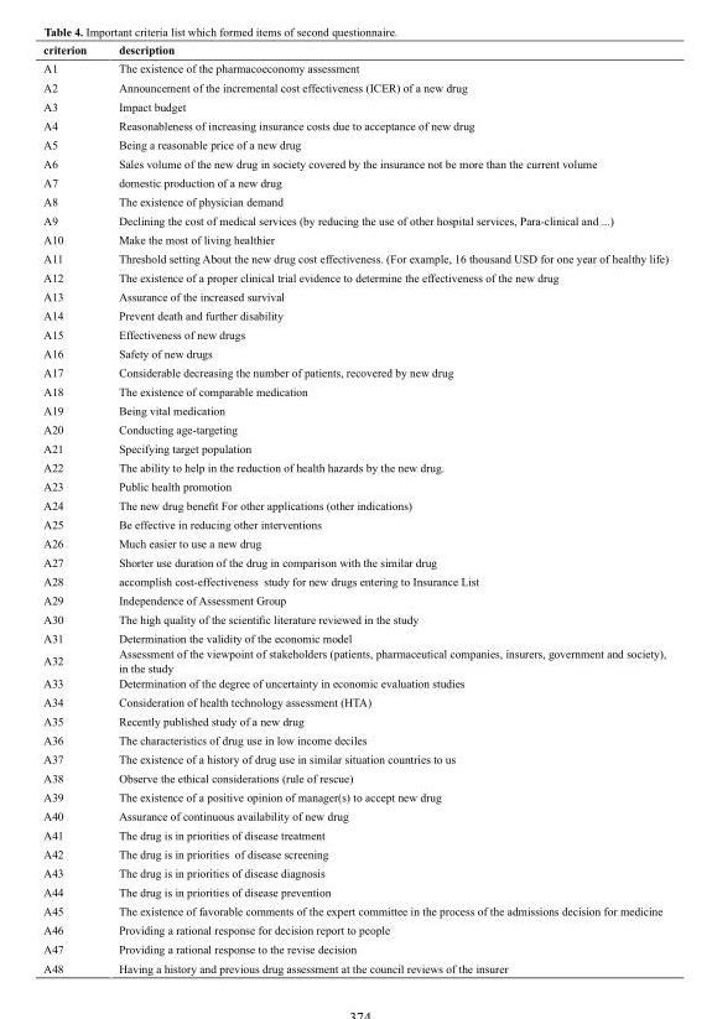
<table><thead><tr><td>criterion</td><td>description</td></tr></thead><tbody><tr><td>A1</td><td>The existence of the pharmacoeconomy assessment</td></tr><tr><td>A2</td><td>Announcement of the incremental cost effectiveness (ICER) of a new drug</td></tr><tr><td>A3</td><td>Impact budget</td></tr><tr><td>A4</td><td>Reasonableness of increasing insurance costs due to acceptance of new drug</td></tr><tr><td>A5</td><td>Being a reasonable price of a new drug</td></tr><tr><td>A6</td><td>Sales volume of the new drug in society covered by the insurance not be more than the current volume</td></tr><tr><td>A7</td><td>domestic production of a new drug</td></tr><tr><td>A8</td><td>The existence of physician demand</td></tr><tr><td>A9</td><td>Declining the cost of medical services (by reducing the use of other hospital services, Para-clinical and ...)</td></tr><tr><td>A10</td><td>Make the most of living healthier</td></tr><tr><td>A11</td><td>Threshold setting About the new drug cost effectiveness. (For example, 16 thousand USD for one year of healthy life)</td></tr><tr><td>A12</td><td>The existence of a proper clinical trial evidence to determine the effectiveness of the new drug</td></tr><tr><td>A13</td><td>Assurance of the increased survival</td></tr><tr><td>A14</td><td>Prevent death and further disability</td></tr><tr><td>A15</td><td>Effectiveness of new drugs</td></tr><tr><td>A16</td><td>Safety of new drugs</td></tr><tr><td>A17</td><td>Considerable decreasing the number of patients, recovered by new drug</td></tr><tr><td>A18</td><td>The existence of comparable medication</td></tr><tr><td>A19</td><td>Being vital medication</td></tr><tr><td>A20</td><td>Conducting age-targeting</td></tr><tr><td>A21</td><td>Specifying target population</td></tr><tr><td>A22</td><td>The ability to help in the reduction of health hazards by the new drug.</td></tr><tr><td>A23</td><td>Public health promotion</td></tr><tr><td>A24</td><td>The new drug benefit For other applications (other indications)</td></tr><tr><td>A25</td><td>Be effective in reducing other interventions</td></tr><tr><td>A26</td><td>Much easier to use a new drug</td></tr><tr><td>A27</td><td>Shorter use duration of the drug in comparison with the similar drug</td></tr><tr><td>A28</td><td>accomplish cost-effectiveness study for new drugs entering to Insurance List</td></tr><tr><td>A29</td><td>Independence of Assessment Group</td></tr><tr><td>A30</td><td>The high quality of the scientific literature reviewed in the study</td></tr><tr><td>A31</td><td>Determination the validity of the economic model</td></tr><tr><td>A32</td><td>Assessment of the viewpoint of stakeholders (patients, pharmaceutical companies, insurers, government and society), in the study</td></tr><tr><td>A33</td><td>Determination of the degree of uncertainty in economic evaluation studies</td></tr><tr><td>A34</td><td>Consideration of health technology assessment (HTA)</td></tr><tr><td>A35</td><td>Recently published study of a new drug</td></tr><tr><td>A36</td><td>The characteristics of drug use in low income deciles</td></tr><tr><td>A37</td><td>The existence of a history of drug use in similar situation countries to us</td></tr><tr><td>A38</td><td>Observe the ethical considerations (rule of rescue)</td></tr><tr><td>A39</td><td>The existence of a positive opinion of manager(s) to accept new drug</td></tr><tr><td>A40</td><td>Assurance of continuous availability of new drug</td></tr><tr><td>A41</td><td>The drug is in priorities of disease treatment</td></tr><tr><td>A42</td><td>The drug is in priorities of disease screening</td></tr><tr><td>A43</td><td>The drug is in priorities of disease diagnosis</td></tr><tr><td>A44</td><td>The drug is in priorities of disease prevention</td></tr><tr><td>A45</td><td>The existence of favorable comments of the expert committee in the process of the admissions decision for medicine</td></tr><tr><td>A46</td><td>Providing a rational response for decision report to people</td></tr><tr><td>A47</td><td>Providing a rational response to the revise decision</td></tr><tr><td>A48</td><td>Having a history and previous drug assessment at the council reviews of the insurer</td></tr></tbody></table>